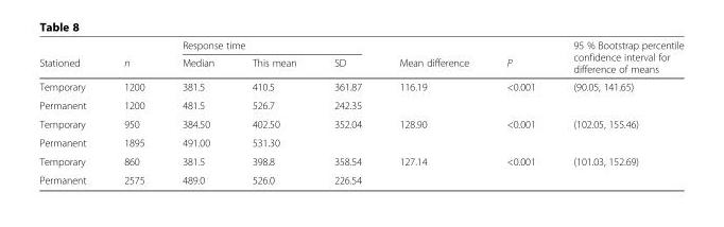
<table><thead><tr><td rowspan="2">Stationed</td><td rowspan="2">n</td><td colspan="3">Response time</td><td rowspan="2">Mean difference</td><td rowspan="2">P</td><td rowspan="2">95 % Bootstrap percentile confidence interval for difference of means</td></tr><tr><td>Median</td><td>This mean</td><td>SD</td></tr></thead><tbody><tr><td>Temporary</td><td>1200</td><td>381.5</td><td>410.5</td><td>361.87</td><td rowspan="2">116.19</td><td rowspan="2">&lt;0.001</td><td rowspan="2">(90.05, 141.65)</td></tr><tr><td>Permanent</td><td>1200</td><td>481.5</td><td>526.7</td><td>242.35</td></tr><tr><td>Temporary</td><td>950</td><td>384.50</td><td>402.50</td><td>352.04</td><td rowspan="2">128.90</td><td rowspan="2">&lt;0.001</td><td rowspan="2">(102.05, 155.46)</td></tr><tr><td>Permanent</td><td>1895</td><td>491.00</td><td>531.30</td><td></td></tr><tr><td>Temporary</td><td>860</td><td>381.5</td><td>398.8</td><td>358.54</td><td rowspan="2">127.14</td><td rowspan="2">&lt;0.001</td><td rowspan="2">(101.03, 152.69)</td></tr><tr><td>Permanent</td><td>2575</td><td>489.0</td><td>526.0</td><td>226.54</td></tr></tbody></table>